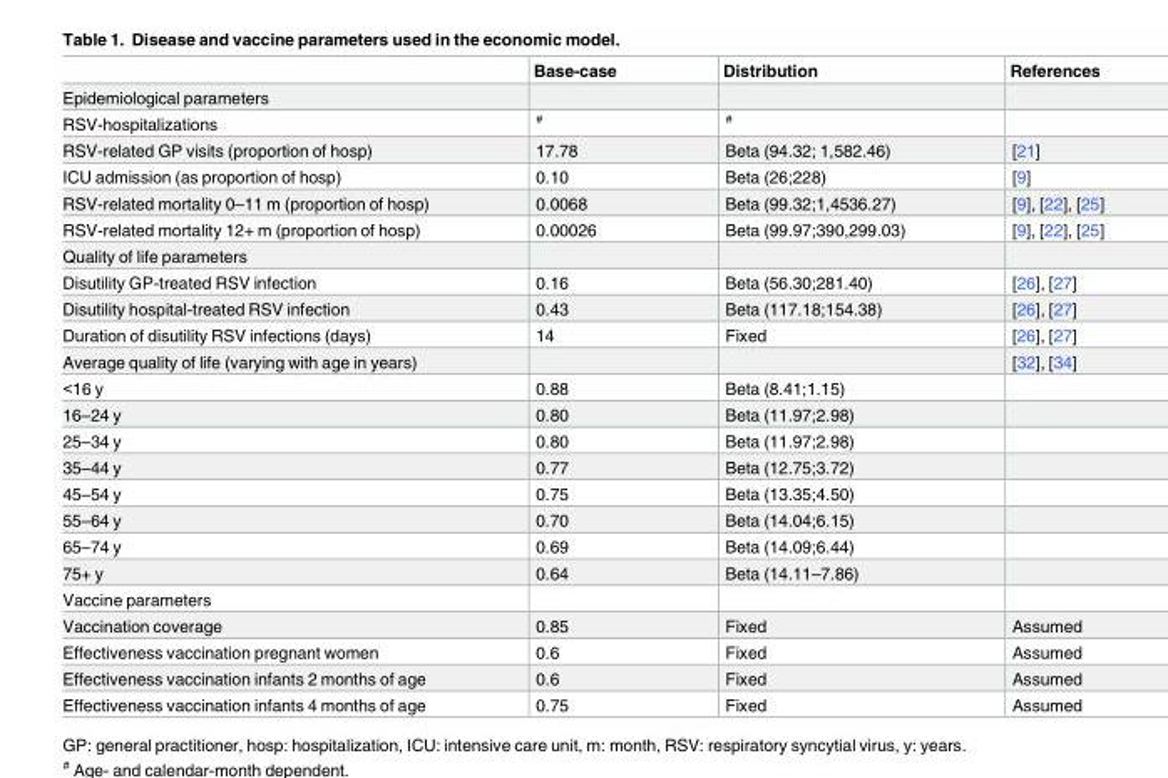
<table><thead><tr><td></td><td>Base-case</td><td>Distribution</td><td>References</td></tr></thead><tbody><tr><td colspan="4">Epidemiological parameters</td></tr><tr><td>RSV-hospitalizations</td><td><sup>#</sup></td><td><sup>#</sup></td><td></td></tr><tr><td>RSV-related GP visits (proportion of hosp)</td><td>17.78</td><td>Beta (94.32; 1,582.46)</td><td>[21]</td></tr><tr><td>ICU admission (as proportion of hosp)</td><td>0.10</td><td>Beta (26;228)</td><td>[9]</td></tr><tr><td>RSV-related mortality 0–11 m (proportion of hosp)</td><td>0.0068</td><td>Beta (99.32;1,4536.27)</td><td>[9], [22], [25]</td></tr><tr><td>RSV-related mortality 12+ m (proportion of hosp)</td><td>0.00026</td><td>Beta (99.97;390,299.03)</td><td>[9], [22], [25]</td></tr><tr><td colspan="4">Quality of life parameters</td></tr><tr><td>Disutility GP-treated RSV infection</td><td>0.16</td><td>Beta (56.30;281.40)</td><td>[26], [27]</td></tr><tr><td>Disutility hospital-treated RSV infection</td><td>0.43</td><td>Beta (117.18;154.38)</td><td>[26], [27]</td></tr><tr><td>Duration of disutility RSV infections (days)</td><td>14</td><td>Fixed</td><td>[26], [27]</td></tr><tr><td>Average quality of life (varying with age in years)</td><td></td><td></td><td>[32], [34]</td></tr><tr><td>&lt;16 y</td><td>0.88</td><td>Beta (8.41;1.15)</td><td></td></tr><tr><td>16–24 y</td><td>0.80</td><td>Beta (11.97;2.98)</td><td></td></tr><tr><td>25–34 y</td><td>0.80</td><td>Beta (11.97;2.98)</td><td></td></tr><tr><td>35–44 y</td><td>0.77</td><td>Beta (12.75;3.72)</td><td></td></tr><tr><td>45–54 y</td><td>0.75</td><td>Beta (13.35;4.50)</td><td></td></tr><tr><td>55–64 y</td><td>0.70</td><td>Beta (14.04;6.15)</td><td></td></tr><tr><td>65–74 y</td><td>0.69</td><td>Beta (14.09;6.44)</td><td></td></tr><tr><td>75+ y</td><td>0.64</td><td>Beta (14.11–7.86)</td><td></td></tr><tr><td colspan="4">Vaccine parameters</td></tr><tr><td>Vaccination coverage</td><td>0.85</td><td>Fixed</td><td>Assumed</td></tr><tr><td>Effectiveness vaccination pregnant women</td><td>0.6</td><td>Fixed</td><td>Assumed</td></tr><tr><td>Effectiveness vaccination infants 2 months of age</td><td>0.6</td><td>Fixed</td><td>Assumed</td></tr><tr><td>Effectiveness vaccination infants 4 months of age</td><td>0.75</td><td>Fixed</td><td>Assumed</td></tr></tbody></table>